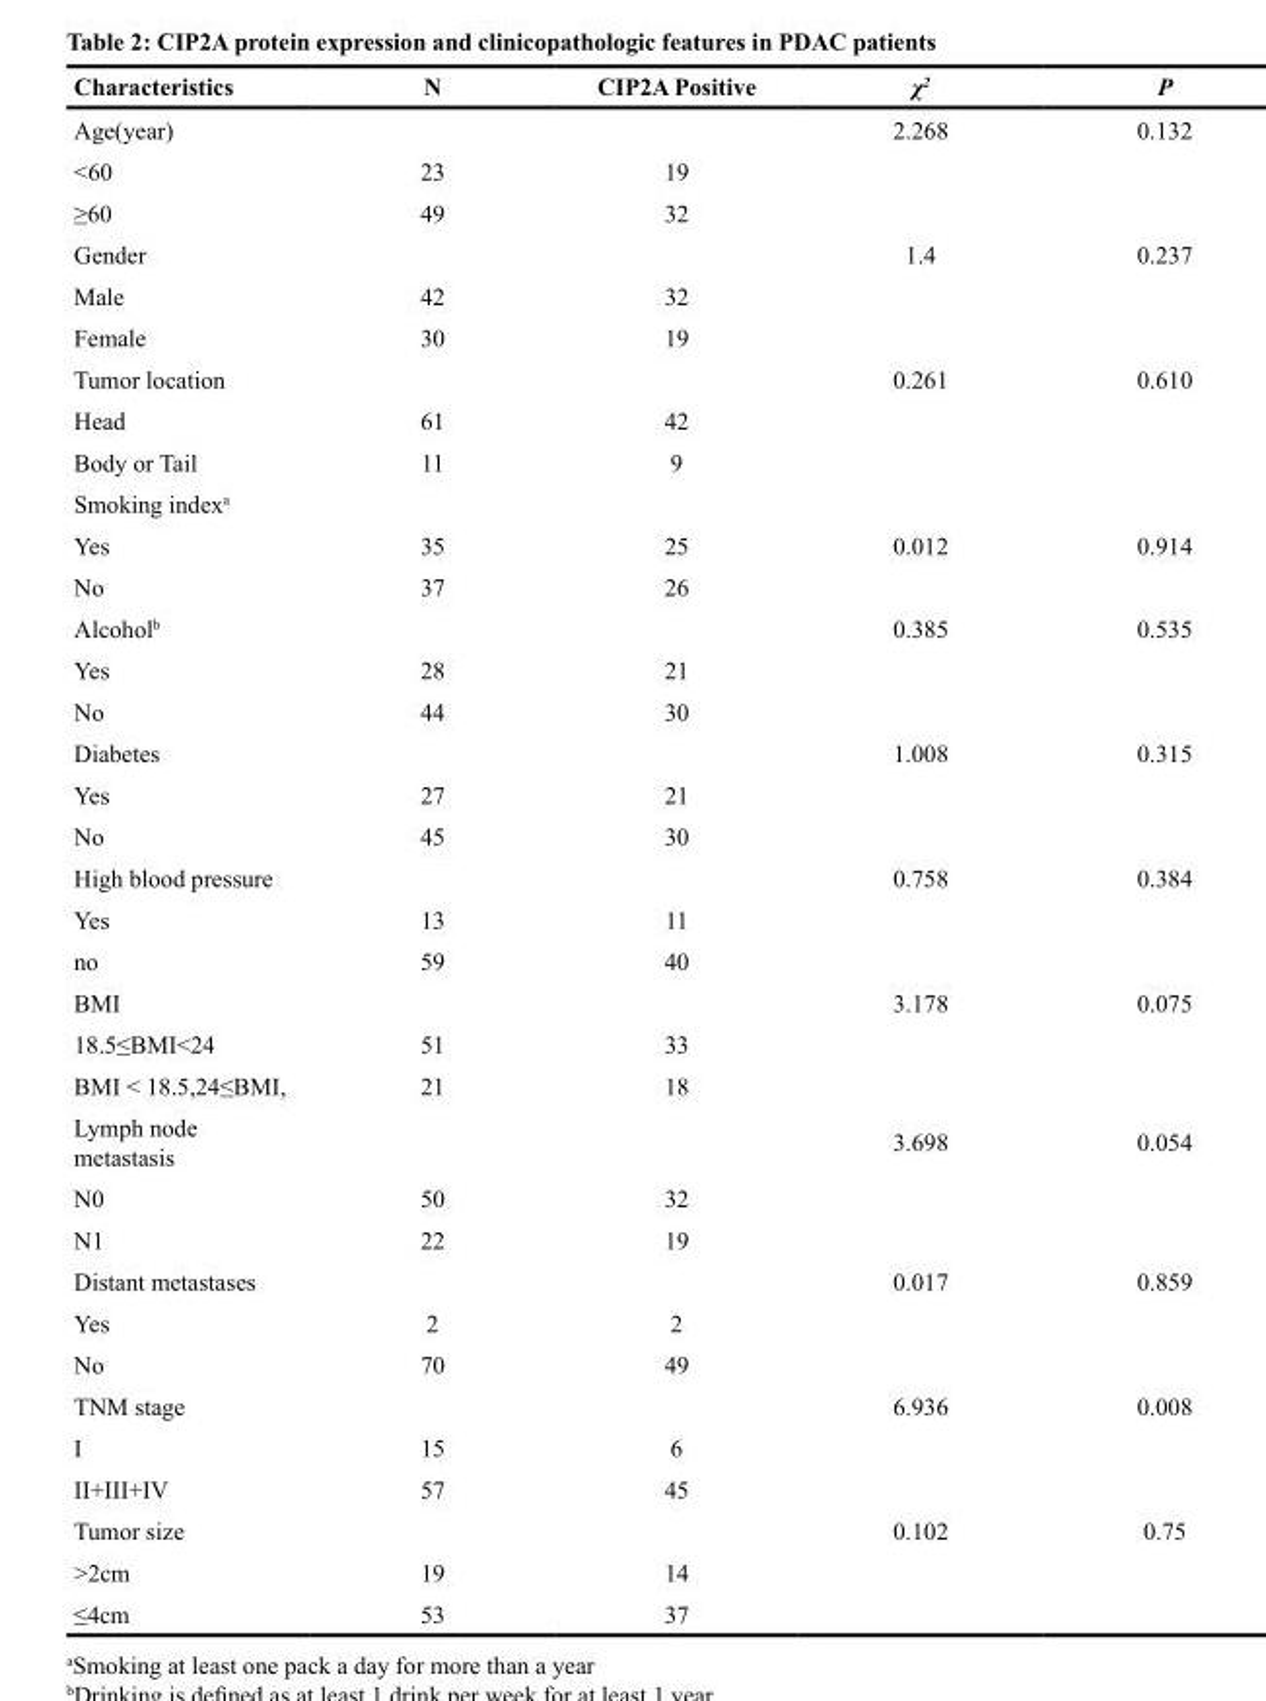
<table><thead><tr><td>Characteristics</td><td>N</td><td>CIP2A Positive</td><td>χ<sup>2</sup></td><td>P</td></tr></thead><tbody><tr><td>Age(year)</td><td></td><td></td><td>2.268</td><td>0.132</td></tr><tr><td>&lt;60</td><td>23</td><td>19</td><td></td><td></td></tr><tr><td>≥60</td><td>49</td><td>32</td><td></td><td></td></tr><tr><td>Gender</td><td></td><td></td><td>1.4</td><td>0.237</td></tr><tr><td>Male</td><td>42</td><td>32</td><td></td><td></td></tr><tr><td>Female</td><td>30</td><td>19</td><td></td><td></td></tr><tr><td>Tumor location</td><td></td><td></td><td>0.261</td><td>0.610</td></tr><tr><td>Head</td><td>61</td><td>42</td><td></td><td></td></tr><tr><td>Body or Tail</td><td>11</td><td>9</td><td></td><td></td></tr><tr><td colspan="5">Smoking index<sup>a</sup></td></tr><tr><td>Yes</td><td>35</td><td>25</td><td>0.012</td><td>0.914</td></tr><tr><td>No</td><td>37</td><td>26</td><td></td><td></td></tr><tr><td>Alcohol<sup>b</sup></td><td></td><td></td><td>0.385</td><td>0.535</td></tr><tr><td>Yes</td><td>28</td><td>21</td><td></td><td></td></tr><tr><td>No</td><td>44</td><td>30</td><td></td><td></td></tr><tr><td>Diabetes</td><td></td><td></td><td>1.008</td><td>0.315</td></tr><tr><td>Yes</td><td>27</td><td>21</td><td></td><td></td></tr><tr><td>No</td><td>45</td><td>30</td><td></td><td></td></tr><tr><td>High blood pressure</td><td></td><td></td><td>0.758</td><td>0.384</td></tr><tr><td>Yes</td><td>13</td><td>11</td><td></td><td></td></tr><tr><td>no</td><td>59</td><td>40</td><td></td><td></td></tr><tr><td>BMI</td><td></td><td></td><td>3.178</td><td>0.075</td></tr><tr><td>18.5≤BMI&lt;24</td><td>51</td><td>33</td><td></td><td></td></tr><tr><td>BMI &lt; 18.5,24≤BMI,</td><td>21</td><td>18</td><td></td><td></td></tr><tr><td>Lymph node metastasis</td><td></td><td></td><td>3.698</td><td>0.054</td></tr><tr><td>N0</td><td>50</td><td>32</td><td></td><td></td></tr><tr><td>N1</td><td>22</td><td>19</td><td></td><td></td></tr><tr><td>Distant metastases</td><td></td><td></td><td>0.017</td><td>0.859</td></tr><tr><td>Yes</td><td>2</td><td>2</td><td></td><td></td></tr><tr><td>No</td><td>70</td><td>49</td><td></td><td></td></tr><tr><td>TNM stage</td><td></td><td></td><td>6.936</td><td>0.008</td></tr><tr><td>I</td><td>15</td><td>6</td><td></td><td></td></tr><tr><td>II+III+IV</td><td>57</td><td>45</td><td></td><td></td></tr><tr><td>Tumor size</td><td></td><td></td><td>0.102</td><td>0.75</td></tr><tr><td>&gt;2cm</td><td>19</td><td>14</td><td></td><td></td></tr><tr><td>≤4cm</td><td>53</td><td>37</td><td></td><td></td></tr></tbody></table>